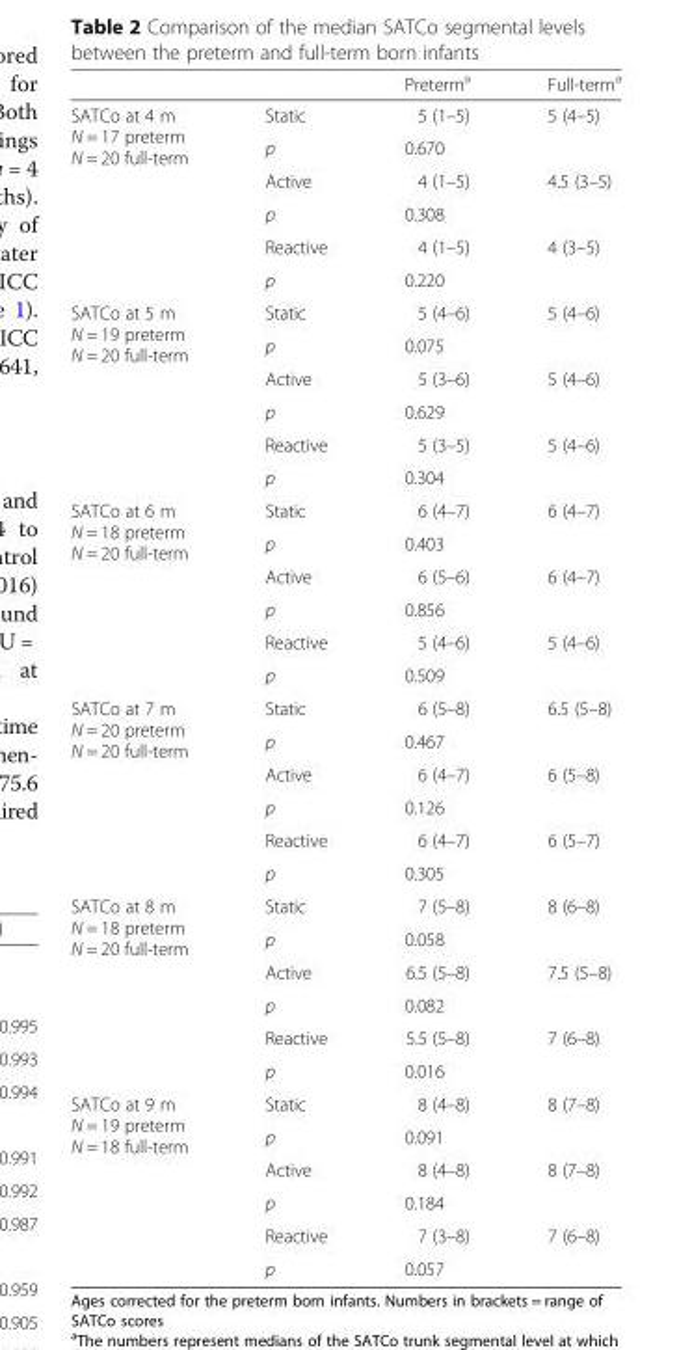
<table><thead><tr><td></td><td></td><td>Preterm<sup>a</sup></td><td>Full-term<sup>a</sup></td></tr></thead><tbody><tr><td rowspan="6">SATCo at 4 m N = 17 preterm N = 20 full-term</td><td>Static</td><td>5 (1–5)</td><td>5 (4–5)</td></tr><tr><td>p</td><td colspan="2">0.670</td></tr><tr><td>Active</td><td>4 (1–5)</td><td>4.5 (3–5)</td></tr><tr><td>p</td><td colspan="2">0.308</td></tr><tr><td>Reactive</td><td>4 (1–5)</td><td>4 (3–5)</td></tr><tr><td>p</td><td colspan="2">0.220</td></tr><tr><td rowspan="6">SATCo at 5 m N = 19 preterm N = 20 full-term</td><td>Static</td><td>5 (4–6)</td><td>5 (4–6)</td></tr><tr><td>p</td><td colspan="2">0.075</td></tr><tr><td>Active</td><td>5 (3–6)</td><td>5 (4–6)</td></tr><tr><td>p</td><td colspan="2">0.629</td></tr><tr><td>Reactive</td><td>5 (3–5)</td><td>5 (4–6)</td></tr><tr><td>p</td><td colspan="2">0.304</td></tr><tr><td rowspan="6">SATCo at 6 m N = 18 preterm N = 20 full-term</td><td>Static</td><td>6 (4–7)</td><td>6 (4–7)</td></tr><tr><td>p</td><td colspan="2">0.403</td></tr><tr><td>Active</td><td>6 (5–6)</td><td>6 (4–7)</td></tr><tr><td>p</td><td colspan="2">0.856</td></tr><tr><td>Reactive</td><td>5 (4–6)</td><td>5 (4–6)</td></tr><tr><td>p</td><td colspan="2">0.509</td></tr><tr><td rowspan="6">SATCo at 7 m N = 20 preterm N = 20 full-term</td><td>Static</td><td>6 (5–8)</td><td>6.5 (5–8)</td></tr><tr><td>p</td><td colspan="2">0.467</td></tr><tr><td>Active</td><td>6 (4–7)</td><td>6 (5–8)</td></tr><tr><td>p</td><td colspan="2">0.126</td></tr><tr><td>Reactive</td><td>6 (4–7)</td><td>6 (5–7)</td></tr><tr><td>p</td><td colspan="2">0.305</td></tr><tr><td rowspan="6">SATCo at 8 m N = 18 preterm N = 20 full-term</td><td>Static</td><td>7 (5–8)</td><td>8 (6–8)</td></tr><tr><td>p</td><td colspan="2">0.058</td></tr><tr><td>Active</td><td>6.5 (5–8)</td><td>7.5 (5–8)</td></tr><tr><td>p</td><td colspan="2">0.082</td></tr><tr><td>Reactive</td><td>5.5 (5–8)</td><td>7 (6–8)</td></tr><tr><td>p</td><td colspan="2">0.016</td></tr><tr><td rowspan="6">SATCo at 9 m N = 19 preterm N = 18 full-term</td><td>Static</td><td>8 (4–8)</td><td>8 (7–8)</td></tr><tr><td>p</td><td colspan="2">0.091</td></tr><tr><td>Active</td><td>8 (4–8)</td><td>8 (7–8)</td></tr><tr><td>p</td><td colspan="2">0.184</td></tr><tr><td>Reactive</td><td>7 (3–8)</td><td>7 (6–8)</td></tr><tr><td>p</td><td colspan="2">0.057</td></tr></tbody></table>